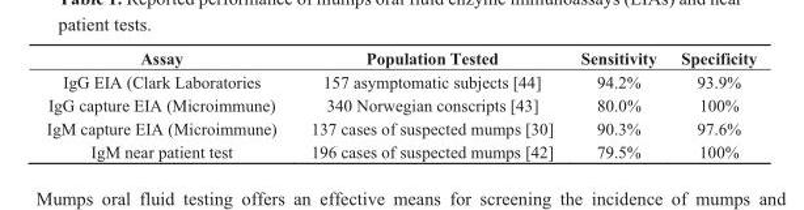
<table><thead><tr><td>Assay</td><td>Population Tested</td><td>Sensitivity</td><td>Specificity</td></tr></thead><tbody><tr><td>IgG EIA (Clark Laboratories</td><td>157 asymptomatic subjects [44]</td><td>94.2%</td><td>93.9%</td></tr><tr><td>IgG capture EIA (Microimmune)</td><td>340 Norwegian conscripts [43]</td><td>80.0%</td><td>100%</td></tr><tr><td>IgM capture EIA (Microimmune)</td><td>137 cases of suspected mumps [30]</td><td>90.3%</td><td>97.6%</td></tr><tr><td>IgM near patient test</td><td>196 cases of suspected mumps [42]</td><td>79.5%</td><td>100%</td></tr></tbody></table>